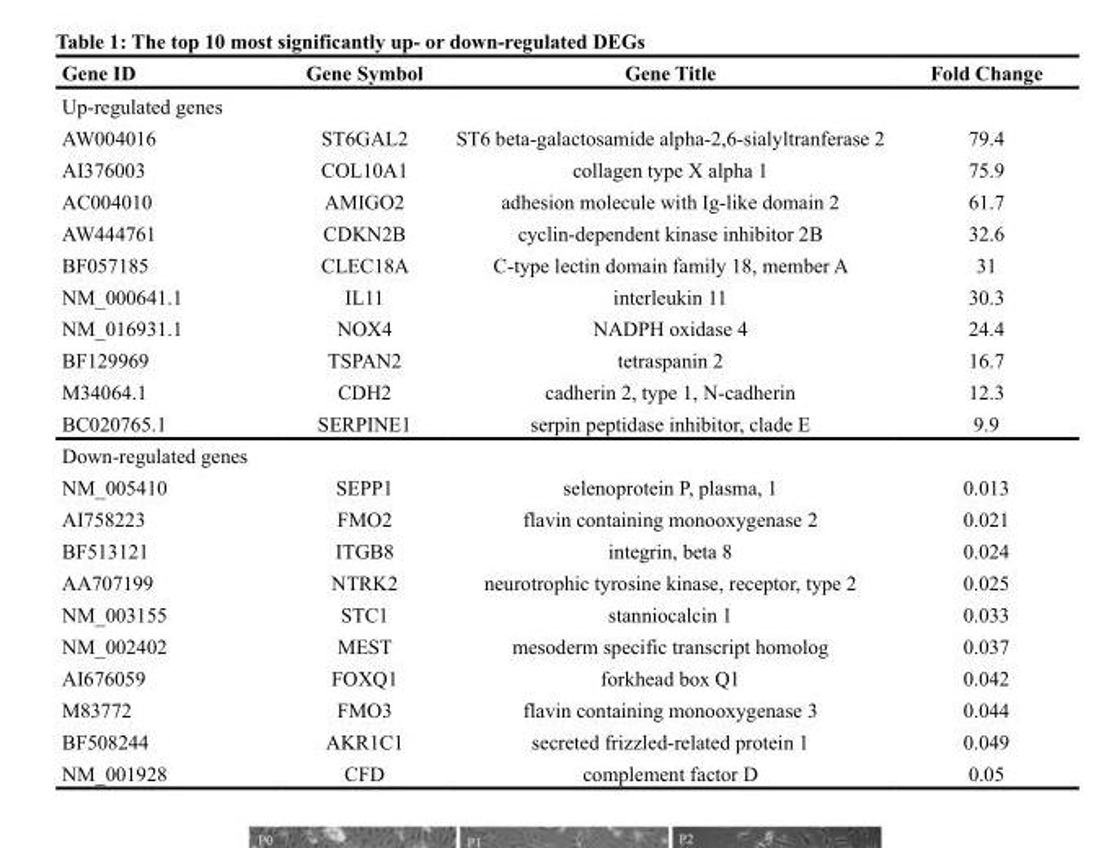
<table><thead><tr><td>Gene ID</td><td>Gene Symbol</td><td>Gene Title</td><td>Fold Change</td></tr></thead><tbody><tr><td colspan="4">Up-regulated genes</td></tr><tr><td>AW004016</td><td>ST6GAL2</td><td>ST6 beta-galactosamide alpha-2,6-sialyltranferase 2</td><td>79.4</td></tr><tr><td>AI376003</td><td>COL10A1</td><td>collagen type X alpha 1</td><td>75.9</td></tr><tr><td>AC004010</td><td>AMIGO2</td><td>adhesion molecule with Ig-like domain 2</td><td>61.7</td></tr><tr><td>AW444761</td><td>CDKN2B</td><td>cyclin-dependent kinase inhibitor 2B</td><td>32.6</td></tr><tr><td>BF057185</td><td>CLEC18A</td><td>C-type lectin domain family 18, member A</td><td>31</td></tr><tr><td>NM_000641.1</td><td>IL11</td><td>interleukin 11</td><td>30.3</td></tr><tr><td>NM_016931.1</td><td>NOX4</td><td>NADPH oxidase 4</td><td>24.4</td></tr><tr><td>BF129969</td><td>TSPAN2</td><td>tetraspanin 2</td><td>16.7</td></tr><tr><td>M34064.1</td><td>CDH2</td><td>cadherin 2, type 1, N-cadherin</td><td>12.3</td></tr><tr><td>BC020765.1</td><td>SERPINE1</td><td>serpin peptidase inhibitor, clade E</td><td>9.9</td></tr><tr><td colspan="4">Down-regulated genes</td></tr><tr><td>NM_005410</td><td>SEPP1</td><td>selenoprotein P, plasma, 1</td><td>0.013</td></tr><tr><td>AI758223</td><td>FMO2</td><td>flavin containing monooxygenase 2</td><td>0.021</td></tr><tr><td>BF513121</td><td>ITGB8</td><td>integrin, beta 8</td><td>0.024</td></tr><tr><td>AA707199</td><td>NTRK2</td><td>neurotrophic tyrosine kinase, receptor, type 2</td><td>0.025</td></tr><tr><td>NM_003155</td><td>STC1</td><td>stanniocalcin 1</td><td>0.033</td></tr><tr><td>NM_002402</td><td>MEST</td><td>mesoderm specific transcript homolog</td><td>0.037</td></tr><tr><td>AI676059</td><td>FOXQ1</td><td>forkhead box Q1</td><td>0.042</td></tr><tr><td>M83772</td><td>FMO3</td><td>flavin containing monooxygenase 3</td><td>0.044</td></tr><tr><td>BF508244</td><td>AKR1C1</td><td>secreted frizzled-related protein 1</td><td>0.049</td></tr><tr><td>NM_001928</td><td>CFD</td><td>complement factor D</td><td>0.05</td></tr></tbody></table>